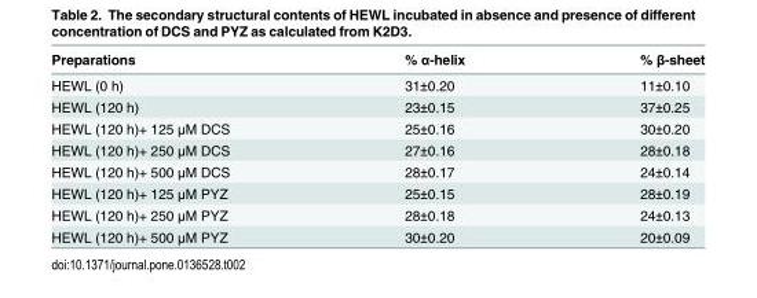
<table><thead><tr><td>Preparations</td><td>% α-helix</td><td>% β-sheet</td></tr></thead><tbody><tr><td>HEWL (0 h)</td><td>31±0.20</td><td>11±0.10</td></tr><tr><td>HEWL (120 h)</td><td>23±0.15</td><td>37±0.25</td></tr><tr><td>HEWL (120 h)+ 125 μM DCS</td><td>25±0.16</td><td>30±0.20</td></tr><tr><td>HEWL (120 h)+ 250 μM DCS</td><td>27±0.16</td><td>28±0.18</td></tr><tr><td>HEWL (120 h)+ 500 μM DCS</td><td>28±0.17</td><td>24±0.14</td></tr><tr><td>HEWL (120 h)+ 125 μM PYZ</td><td>25±0.15</td><td>28±0.19</td></tr><tr><td>HEWL (120 h)+ 250 μM PYZ</td><td>28±0.18</td><td>24±0.13</td></tr><tr><td>HEWL (120 h)+ 500 μM PYZ</td><td>30±0.20</td><td>20±0.09</td></tr></tbody></table>